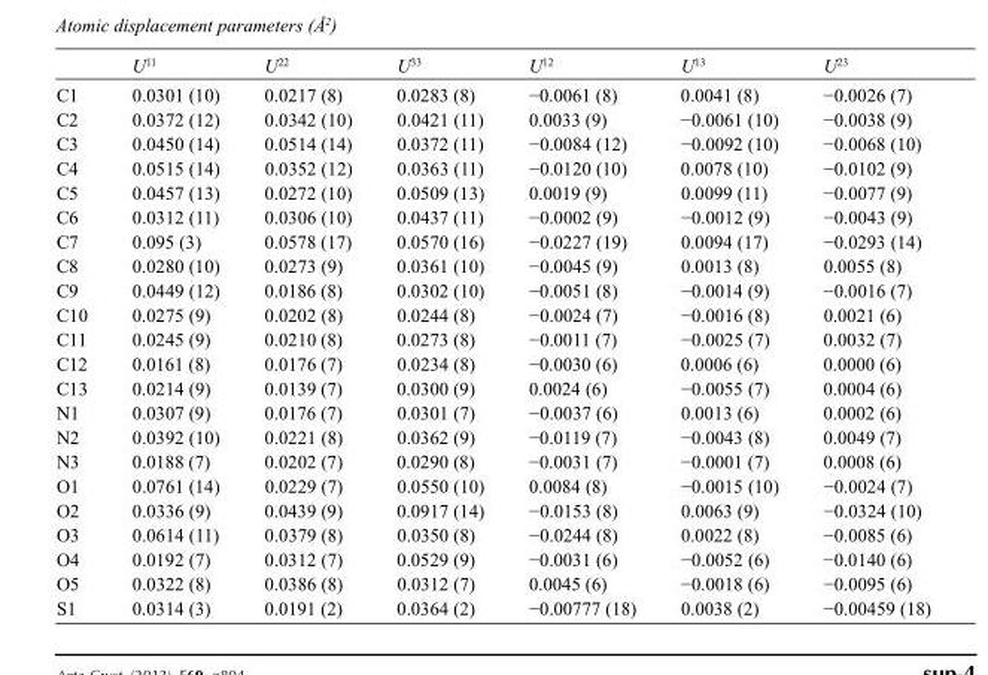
<table><thead><tr><td></td><td>U<sup>11</sup></td><td>U<sup>22</sup></td><td>U<sup>33</sup></td><td>U<sup>12</sup></td><td>U<sup>13</sup></td><td>U<sup>23</sup></td></tr></thead><tbody><tr><td>C1</td><td>0.0301 (10)</td><td>0.0217 (8)</td><td>0.0283 (8)</td><td>−0.0061 (8)</td><td>0.0041 (8)</td><td>−0.0026 (7)</td></tr><tr><td>C2</td><td>0.0372 (12)</td><td>0.0342 (10)</td><td>0.0421 (11)</td><td>0.0033 (9)</td><td>−0.0061 (10)</td><td>−0.0038 (9)</td></tr><tr><td>C3</td><td>0.0450 (14)</td><td>0.0514 (14)</td><td>0.0372 (11)</td><td>−0.0084 (12)</td><td>−0.0092 (10)</td><td>−0.0068 (10)</td></tr><tr><td>C4</td><td>0.0515 (14)</td><td>0.0352 (12)</td><td>0.0363 (11)</td><td>−0.0120 (10)</td><td>0.0078 (10)</td><td>−0.0102 (9)</td></tr><tr><td>C5</td><td>0.0457 (13)</td><td>0.0272 (10)</td><td>0.0509 (13)</td><td>0.0019 (9)</td><td>0.0099 (11)</td><td>−0.0077 (9)</td></tr><tr><td>C6</td><td>0.0312 (11)</td><td>0.0306 (10)</td><td>0.0437 (11)</td><td>−0.0002 (9)</td><td>−0.0012 (9)</td><td>−0.0043 (9)</td></tr><tr><td>C7</td><td>0.095 (3)</td><td>0.0578 (17)</td><td>0.0570 (16)</td><td>−0.0227 (19)</td><td>0.0094 (17)</td><td>−0.0293 (14)</td></tr><tr><td>C8</td><td>0.0280 (10)</td><td>0.0273 (9)</td><td>0.0361 (10)</td><td>−0.0045 (9)</td><td>0.0013 (8)</td><td>0.0055 (8)</td></tr><tr><td>C9</td><td>0.0449 (12)</td><td>0.0186 (8)</td><td>0.0302 (10)</td><td>−0.0051 (8)</td><td>−0.0014 (9)</td><td>−0.0016 (7)</td></tr><tr><td>C10</td><td>0.0275 (9)</td><td>0.0202 (8)</td><td>0.0244 (8)</td><td>−0.0024 (7)</td><td>−0.0016 (8)</td><td>0.0021 (6)</td></tr><tr><td>C11</td><td>0.0245 (9)</td><td>0.0210 (8)</td><td>0.0273 (8)</td><td>−0.0011 (7)</td><td>−0.0025 (7)</td><td>0.0032 (7)</td></tr><tr><td>C12</td><td>0.0161 (8)</td><td>0.0176 (7)</td><td>0.0234 (8)</td><td>−0.0030 (6)</td><td>0.0006 (6)</td><td>0.0000 (6)</td></tr><tr><td>C13</td><td>0.0214 (9)</td><td>0.0139 (7)</td><td>0.0300 (9)</td><td>0.0024 (6)</td><td>−0.0055 (7)</td><td>0.0004 (6)</td></tr><tr><td>N1</td><td>0.0307 (9)</td><td>0.0176 (7)</td><td>0.0301 (7)</td><td>−0.0037 (6)</td><td>0.0013 (6)</td><td>0.0002 (6)</td></tr><tr><td>N2</td><td>0.0392 (10)</td><td>0.0221 (8)</td><td>0.0362 (9)</td><td>−0.0119 (7)</td><td>−0.0043 (8)</td><td>0.0049 (7)</td></tr><tr><td>N3</td><td>0.0188 (7)</td><td>0.0202 (7)</td><td>0.0290 (8)</td><td>−0.0031 (7)</td><td>−0.0001 (7)</td><td>0.0008 (6)</td></tr><tr><td>O1</td><td>0.0761 (14)</td><td>0.0229 (7)</td><td>0.0550 (10)</td><td>0.0084 (8)</td><td>−0.0015 (10)</td><td>−0.0024 (7)</td></tr><tr><td>O2</td><td>0.0336 (9)</td><td>0.0439 (9)</td><td>0.0917 (14)</td><td>−0.0153 (8)</td><td>0.0063 (9)</td><td>−0.0324 (10)</td></tr><tr><td>O3</td><td>0.0614 (11)</td><td>0.0379 (8)</td><td>0.0350 (8)</td><td>−0.0244 (8)</td><td>0.0022 (8)</td><td>−0.0085 (6)</td></tr><tr><td>O4</td><td>0.0192 (7)</td><td>0.0312 (7)</td><td>0.0529 (9)</td><td>−0.0031 (6)</td><td>−0.0052 (6)</td><td>−0.0140 (6)</td></tr><tr><td>O5</td><td>0.0322 (8)</td><td>0.0386 (8)</td><td>0.0312 (7)</td><td>0.0045 (6)</td><td>−0.0018 (6)</td><td>−0.0095 (6)</td></tr><tr><td>S1</td><td>0.0314 (3)</td><td>0.0191 (2)</td><td>0.0364 (2)</td><td>−0.00777 (18)</td><td>0.0038 (2)</td><td>−0.00459 (18)</td></tr></tbody></table>